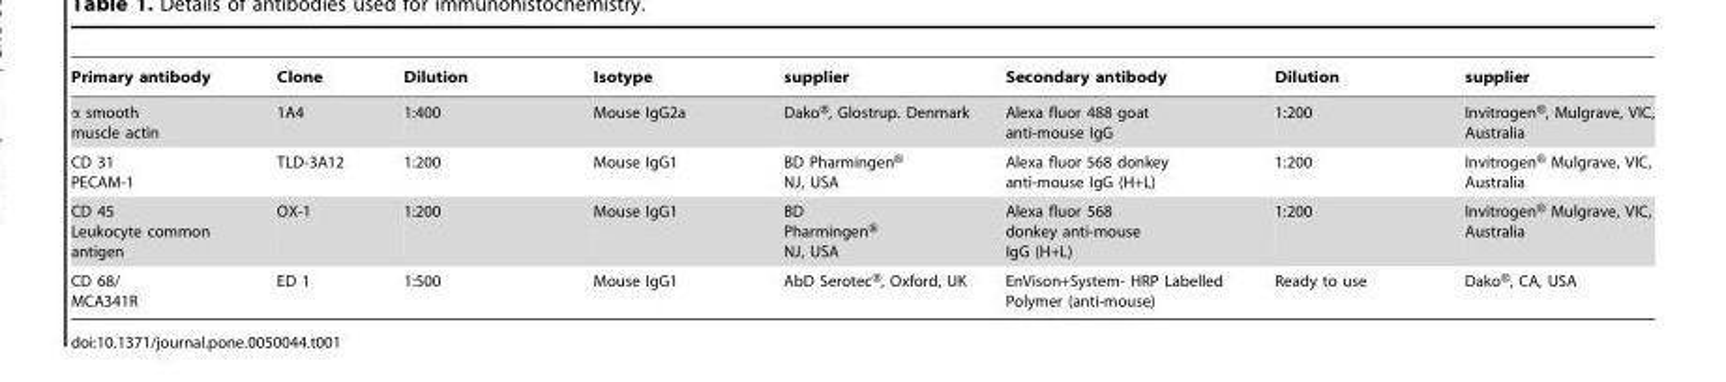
<table><thead><tr><td>Primary antibody</td><td>Clone</td><td>Dilution</td><td>Isotype</td><td>supplier</td><td>Secondary antibody</td><td>Dilution</td><td>supplier</td></tr></thead><tbody><tr><td>α smooth muscle actin</td><td>1A4</td><td>1:400</td><td>Mouse IgG2a</td><td>Dako®, Glostrup. Denmark</td><td>Alexa fluor 488 goat anti-mouse IgG</td><td>1:200</td><td>Invitrogen®, Mulgrave, VIC, Australia</td></tr><tr><td>CD 31 PECAM-1</td><td>TLD-3A12</td><td>1:200</td><td>Mouse IgG1</td><td>BD Pharmingen® NJ, USA</td><td>Alexa fluor 568 donkey anti-mouse IgG (H+L)</td><td>1:200</td><td>Invitrogen® Mulgrave, VIC, Australia</td></tr><tr><td>CD 45 Leukocyte common antigen</td><td>OX-1</td><td>1:200</td><td>Mouse IgG1</td><td>BD Pharmingen® NJ, USA</td><td>Alexa fluor 568 donkey anti-mouse IgG (H+L)</td><td>1:200</td><td>Invitrogen® Mulgrave, VIC, Australia</td></tr><tr><td>CD 68/ MCA341R</td><td>ED 1</td><td>1:500</td><td>Mouse IgG1</td><td>AbD Serotec®, Oxford, UK</td><td>EnVison+System- HRP Labelled Polymer (anti-mouse)</td><td>Ready to use</td><td>Dako®, CA, USA</td></tr></tbody></table>